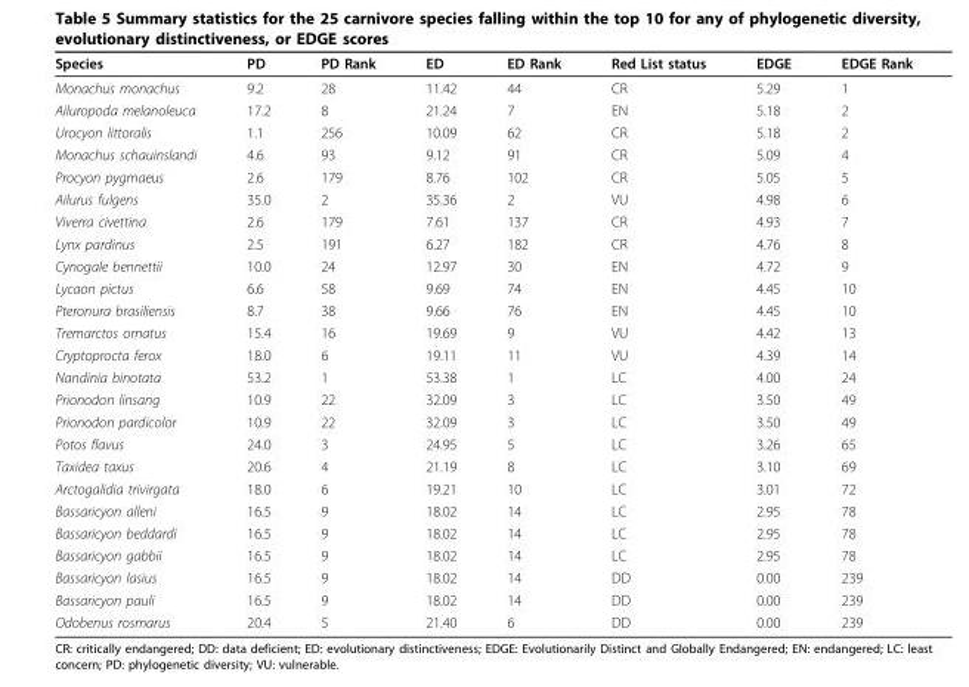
<table><thead><tr><td>Species</td><td>PD</td><td>PD Rank</td><td>ED</td><td>ED Rank</td><td>Red List status</td><td>EDGE</td><td>EDGE Rank</td></tr></thead><tbody><tr><td>Monachus monachus</td><td>9.2</td><td>28</td><td>11.42</td><td>44</td><td>CR</td><td>5.29</td><td>1</td></tr><tr><td>Ailuropoda melanoleuca</td><td>17.2</td><td>8</td><td>21.24</td><td>7</td><td>EN</td><td>5.18</td><td>2</td></tr><tr><td>Urocyon littoralis</td><td>1.1</td><td>256</td><td>10.09</td><td>62</td><td>CR</td><td>5.18</td><td>2</td></tr><tr><td>Monachus schauinslandi</td><td>4.6</td><td>93</td><td>9.12</td><td>91</td><td>CR</td><td>5.09</td><td>4</td></tr><tr><td>Procyon pygmaeus</td><td>2.6</td><td>179</td><td>8.76</td><td>102</td><td>CR</td><td>5.05</td><td>5</td></tr><tr><td>Ailurus fulgens</td><td>35.0</td><td>2</td><td>35.36</td><td>2</td><td>VU</td><td>4.98</td><td>6</td></tr><tr><td>Viverra civettina</td><td>2.6</td><td>179</td><td>7.61</td><td>137</td><td>CR</td><td>4.93</td><td>7</td></tr><tr><td>Lynx pardinus</td><td>2.5</td><td>191</td><td>6.27</td><td>182</td><td>CR</td><td>4.76</td><td>8</td></tr><tr><td>Cynogale bennettii</td><td>10.0</td><td>24</td><td>12.97</td><td>30</td><td>EN</td><td>4.72</td><td>9</td></tr><tr><td>Lycaon pictus</td><td>6.6</td><td>58</td><td>9.69</td><td>74</td><td>EN</td><td>4.45</td><td>10</td></tr><tr><td>Pteronura brasiliensis</td><td>8.7</td><td>38</td><td>9.66</td><td>76</td><td>EN</td><td>4.45</td><td>10</td></tr><tr><td>Tremarctos ornatus</td><td>15.4</td><td>16</td><td>19.69</td><td>9</td><td>VU</td><td>4.42</td><td>13</td></tr><tr><td>Cryptoprocta ferox</td><td>18.0</td><td>6</td><td>19.11</td><td>11</td><td>VU</td><td>4.39</td><td>14</td></tr><tr><td>Nandinia binotata</td><td>53.2</td><td>1</td><td>53.38</td><td>1</td><td>LC</td><td>4.00</td><td>24</td></tr><tr><td>Prionodon linsang</td><td>10.9</td><td>22</td><td>32.09</td><td>3</td><td>LC</td><td>3.50</td><td>49</td></tr><tr><td>Prionodon pardicolor</td><td>10.9</td><td>22</td><td>32.09</td><td>3</td><td>LC</td><td>3.50</td><td>49</td></tr><tr><td>Potos flavus</td><td>24.0</td><td>3</td><td>24.95</td><td>5</td><td>LC</td><td>3.26</td><td>65</td></tr><tr><td>Taxidea taxus</td><td>20.6</td><td>4</td><td>21.19</td><td>8</td><td>LC</td><td>3.10</td><td>69</td></tr><tr><td>Arctogalidia trivirgata</td><td>18.0</td><td>6</td><td>19.21</td><td>10</td><td>LC</td><td>3.01</td><td>72</td></tr><tr><td>Bassaricyon alleni</td><td>16.5</td><td>9</td><td>18.02</td><td>14</td><td>LC</td><td>2.95</td><td>78</td></tr><tr><td>Bassaricyon beddardi</td><td>16.5</td><td>9</td><td>18.02</td><td>14</td><td>LC</td><td>2.95</td><td>78</td></tr><tr><td>Bassaricyon gabbii</td><td>16.5</td><td>9</td><td>18.02</td><td>14</td><td>LC</td><td>2.95</td><td>78</td></tr><tr><td>Bassaricyon lasius</td><td>16.5</td><td>9</td><td>18.02</td><td>14</td><td>DD</td><td>0.00</td><td>239</td></tr><tr><td>Bassaricyon pauli</td><td>16.5</td><td>9</td><td>18.02</td><td>14</td><td>DD</td><td>0.00</td><td>239</td></tr><tr><td>Odobenus rosmarus</td><td>20.4</td><td>5</td><td>21.40</td><td>6</td><td>DD</td><td>0.00</td><td>239</td></tr></tbody></table>